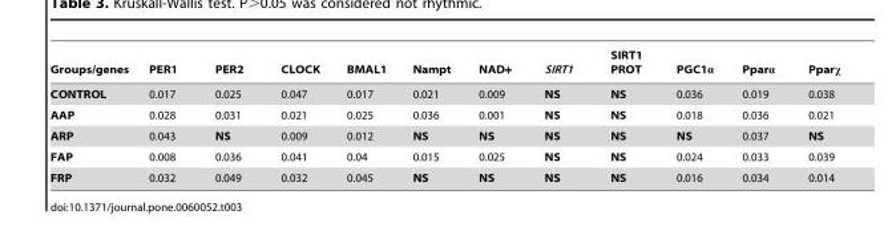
<table><thead><tr><td>Groups/genes</td><td>PER1</td><td>PER2</td><td>CLOCK</td><td>BMAL1</td><td>Nampt</td><td>NAD+</td><td>SIRT1</td><td>SIRT1 PROT</td><td>PGC1α</td><td>Pparα</td><td>Pparχ</td></tr></thead><tbody><tr><td>CONTROL</td><td>0.017</td><td>0.025</td><td>0.047</td><td>0.017</td><td>0.021</td><td>0.009</td><td>NS</td><td>NS</td><td>0.036</td><td>0.019</td><td>0.038</td></tr><tr><td>AAP</td><td>0.028</td><td>0.031</td><td>0.021</td><td>0.025</td><td>0.036</td><td>0.001</td><td>NS</td><td>NS</td><td>0.018</td><td>0.036</td><td>0.021</td></tr><tr><td>ARP</td><td>0.043</td><td>NS</td><td>0.009</td><td>0.012</td><td>NS</td><td>NS</td><td>NS</td><td>NS</td><td>NS</td><td>0.037</td><td>NS</td></tr><tr><td>FAP</td><td>0.008</td><td>0.036</td><td>0.041</td><td>0.04</td><td>0.015</td><td>0.025</td><td>NS</td><td>NS</td><td>0.024</td><td>0.033</td><td>0.039</td></tr><tr><td>FRP</td><td>0.032</td><td>0.049</td><td>0.032</td><td>0.045</td><td>NS</td><td>NS</td><td>NS</td><td>NS</td><td>0.016</td><td>0.034</td><td>0.014</td></tr></tbody></table>